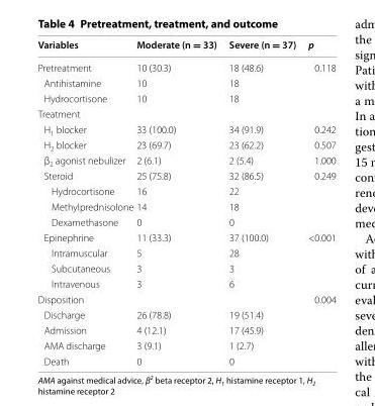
<table><thead><tr><td>Variables</td><td>Moderate (n = 33)</td><td>Severe (n = 37)</td><td>p</td></tr></thead><tbody><tr><td>Pretreatment</td><td>10 (30.3)</td><td>18 (48.6)</td><td>0.118</td></tr><tr><td>Antihistamine</td><td>10</td><td>18</td><td></td></tr><tr><td>Hydrocortisone</td><td>10</td><td>18</td><td></td></tr><tr><td colspan="4">Treatment</td></tr><tr><td>H<sub>1</sub> blocker</td><td>33 (100.0)</td><td>34 (91.9)</td><td>0.242</td></tr><tr><td>H<sub>2</sub> blocker</td><td>23 (69.7)</td><td>23 (62.2)</td><td>0.507</td></tr><tr><td>β<sub>2</sub> agonist nebulizer</td><td>2 (6.1)</td><td>2 (5.4)</td><td>1.000</td></tr><tr><td>Steroid</td><td>25 (75.8)</td><td>32 (86.5)</td><td>0.249</td></tr><tr><td>Hydrocortisone</td><td>16</td><td>22</td><td></td></tr><tr><td>Methylprednisolone</td><td>14</td><td>18</td><td></td></tr><tr><td>Dexamethasone</td><td>0</td><td>0</td><td></td></tr><tr><td>Epinephrine</td><td>11 (33.3)</td><td>37 (100.0)</td><td>&lt;0.001</td></tr><tr><td>Intramuscular</td><td>5</td><td>28</td><td></td></tr><tr><td>Subcutaneous</td><td>3</td><td>3</td><td></td></tr><tr><td>Intravenous</td><td>3</td><td>6</td><td></td></tr><tr><td>Disposition</td><td></td><td></td><td>0.004</td></tr><tr><td>Discharge</td><td>26 (78.8)</td><td>19 (51.4)</td><td></td></tr><tr><td>Admission</td><td>4 (12.1)</td><td>17 (45.9)</td><td></td></tr><tr><td>AMA discharge</td><td>3 (9.1)</td><td>1 (2.7)</td><td></td></tr><tr><td>Death</td><td>0</td><td>0</td><td></td></tr></tbody></table>